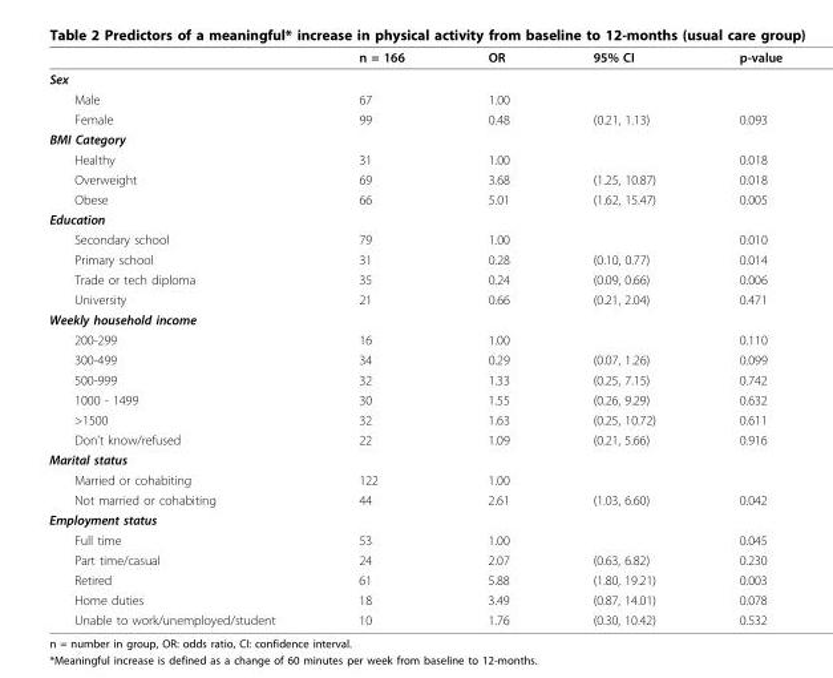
<table><thead><tr><td></td><td>n = 166</td><td>OR</td><td>95% CI</td><td>p-value</td></tr></thead><tbody><tr><td colspan="5">Sex</td></tr><tr><td>Male</td><td>67</td><td>1.00</td><td></td><td></td></tr><tr><td>Female</td><td>99</td><td>0.48</td><td>(0.21, 1.13)</td><td>0.093</td></tr><tr><td colspan="5">BMI Category</td></tr><tr><td>Healthy</td><td>31</td><td>1.00</td><td></td><td>0.018</td></tr><tr><td>Overweight</td><td>69</td><td>3.68</td><td>(1.25, 10.87)</td><td>0.018</td></tr><tr><td>Obese</td><td>66</td><td>5.01</td><td>(1.62, 15.47)</td><td>0.005</td></tr><tr><td colspan="5">Education</td></tr><tr><td>Secondary school</td><td>79</td><td>1.00</td><td></td><td>0.010</td></tr><tr><td>Primary school</td><td>31</td><td>0.28</td><td>(0.10, 0.77)</td><td>0.014</td></tr><tr><td>Trade or tech diploma</td><td>35</td><td>0.24</td><td>(0.09, 0.66)</td><td>0.006</td></tr><tr><td>University</td><td>21</td><td>0.66</td><td>(0.21, 2.04)</td><td>0.471</td></tr><tr><td colspan="5">Weekly household income</td></tr><tr><td>200-299</td><td>16</td><td>1.00</td><td></td><td>0.110</td></tr><tr><td>300-499</td><td>34</td><td>0.29</td><td>(0.07, 1.26)</td><td>0.099</td></tr><tr><td>500-999</td><td>32</td><td>1.33</td><td>(0.25, 7.15)</td><td>0.742</td></tr><tr><td>1000 - 1499</td><td>30</td><td>1.55</td><td>(0.26, 9.29)</td><td>0.632</td></tr><tr><td>&gt;1500</td><td>32</td><td>1.63</td><td>(0.25, 10.72)</td><td>0.611</td></tr><tr><td>Don’t know/refused</td><td>22</td><td>1.09</td><td>(0.21, 5.66)</td><td>0.916</td></tr><tr><td colspan="5">Marital status</td></tr><tr><td>Married or cohabiting</td><td>122</td><td>1.00</td><td></td><td></td></tr><tr><td>Not married or cohabiting</td><td>44</td><td>2.61</td><td>(1.03, 6.60)</td><td>0.042</td></tr><tr><td colspan="5">Employment status</td></tr><tr><td>Full time</td><td>53</td><td>1.00</td><td></td><td>0.045</td></tr><tr><td>Part time/casual</td><td>24</td><td>2.07</td><td>(0.63, 6.82)</td><td>0.230</td></tr><tr><td>Retired</td><td>61</td><td>5.88</td><td>(1.80, 19.21)</td><td>0.003</td></tr><tr><td>Home duties</td><td>18</td><td>3.49</td><td>(0.87, 14.01)</td><td>0.078</td></tr><tr><td>Unable to work/unemployed/student</td><td>10</td><td>1.76</td><td>(0.30, 10.42)</td><td>0.532</td></tr></tbody></table>